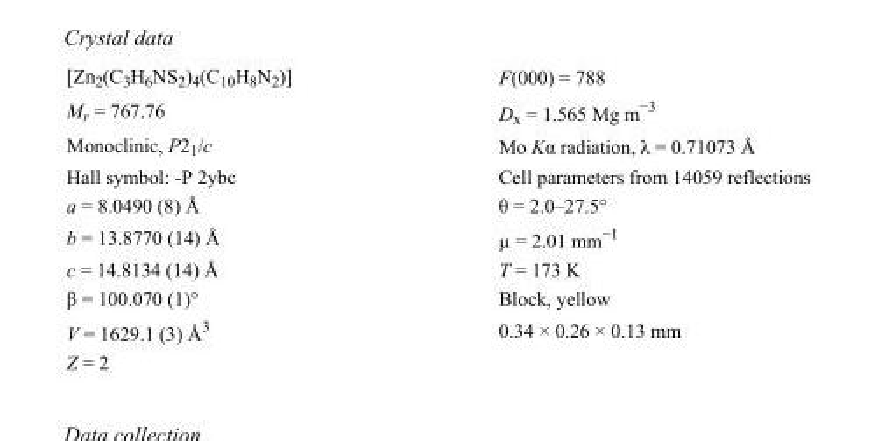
<table><tbody><tr><td>[Zn<sub>2</sub>(C<sub>3</sub>H<sub>6</sub>NS<sub>2</sub>)<sub>4</sub>(C<sub>10</sub>H<sub>8</sub>N<sub>2</sub>)]</td><td>F(000) = 788</td></tr><tr><td>M<sub>r</sub> = 767.76</td><td>D<sub>x</sub> = 1.565 Mg m<sup>−3</sup></td></tr><tr><td>Monoclinic, P2<sub>1</sub>/c</td><td>Mo Kα radiation, λ = 0.71073 Å</td></tr><tr><td>Hall symbol: -P 2ybc</td><td>Cell parameters from 14059 reflections</td></tr><tr><td>a = 8.0490 (8) Å</td><td>θ = 2.0–27.5°</td></tr><tr><td>b = 13.8770 (14) Å</td><td>µ = 2.01 mm<sup>−1</sup></td></tr><tr><td>c = 14.8134 (14) Å</td><td>T = 173 K</td></tr><tr><td>β = 100.070 (1)°</td><td>Block, yellow</td></tr><tr><td>V = 1629.1 (3) Å<sup>3</sup></td><td>0.34 × 0.26 × 0.13 mm</td></tr><tr><td>Z = 2</td><td></td></tr></tbody></table>